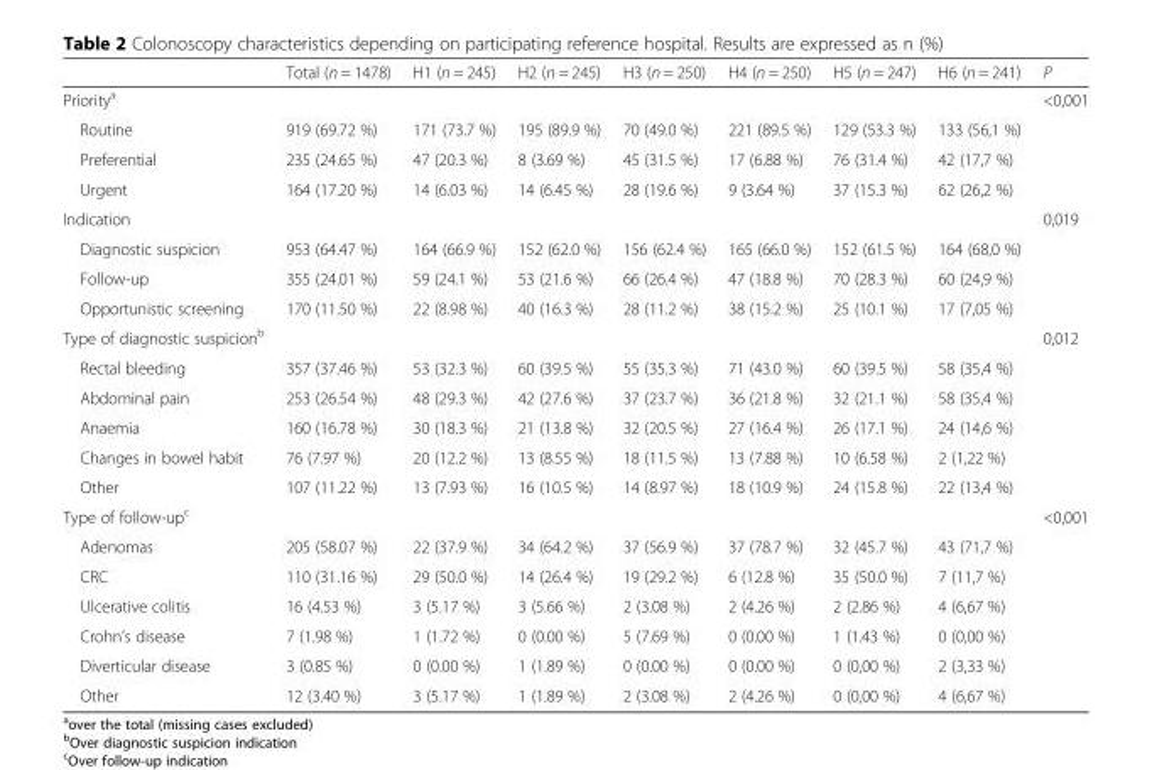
<table><thead><tr><td></td><td>Total (n = 1478)</td><td>H1 (n = 245)</td><td>H2 (n = 245)</td><td>H3 (n = 250)</td><td>H4 (n = 250)</td><td>H5 (n = 247)</td><td>H6 (n = 241)</td><td>P</td></tr></thead><tbody><tr><td>Priority<sup>a</sup></td><td></td><td></td><td></td><td></td><td></td><td></td><td></td><td>&lt;0,001</td></tr><tr><td>Routine</td><td>919 (69.72 %)</td><td>171 (73.7 %)</td><td>195 (89.9 %)</td><td>70 (49.0 %)</td><td>221 (89.5 %)</td><td>129 (53.3 %)</td><td>133 (56,1 %)</td><td></td></tr><tr><td>Preferential</td><td>235 (24.65 %)</td><td>47 (20.3 %)</td><td>8 (3.69 %)</td><td>45 (31.5 %)</td><td>17 (6.88 %)</td><td>76 (31.4 %)</td><td>42 (17,7 %)</td><td></td></tr><tr><td>Urgent</td><td>164 (17.20 %)</td><td>14 (6.03 %)</td><td>14 (6.45 %)</td><td>28 (19.6 %)</td><td>9 (3.64 %)</td><td>37 (15.3 %)</td><td>62 (26,2 %)</td><td></td></tr><tr><td>Indication</td><td></td><td></td><td></td><td></td><td></td><td></td><td></td><td>0,019</td></tr><tr><td>Diagnostic suspicion</td><td>953 (64.47 %)</td><td>164 (66.9 %)</td><td>152 (62.0 %)</td><td>156 (62.4 %)</td><td>165 (66.0 %)</td><td>152 (61.5 %)</td><td>164 (68,0 %)</td><td></td></tr><tr><td>Follow-up</td><td>355 (24.01 %)</td><td>59 (24.1 %)</td><td>53 (21.6 %)</td><td>66 (26.4 %)</td><td>47 (18.8 %)</td><td>70 (28.3 %)</td><td>60 (24,9 %)</td><td></td></tr><tr><td>Opportunistic screening</td><td>170 (11.50 %)</td><td>22 (8.98 %)</td><td>40 (16.3 %)</td><td>28 (11.2 %)</td><td>38 (15.2 %)</td><td>25 (10.1 %)</td><td>17 (7,05 %)</td><td></td></tr><tr><td>Type of diagnostic suspicion<sup>b</sup></td><td></td><td></td><td></td><td></td><td></td><td></td><td></td><td>0,012</td></tr><tr><td>Rectal bleeding</td><td>357 (37.46 %)</td><td>53 (32.3 %)</td><td>60 (39.5 %)</td><td>55 (35.3 %)</td><td>71 (43.0 %)</td><td>60 (39.5 %)</td><td>58 (35,4 %)</td><td></td></tr><tr><td>Abdominal pain</td><td>253 (26.54 %)</td><td>48 (29.3 %)</td><td>42 (27.6 %)</td><td>37 (23.7 %)</td><td>36 (21.8 %)</td><td>32 (21.1 %)</td><td>58 (35,4 %)</td><td></td></tr><tr><td>Anaemia</td><td>160 (16.78 %)</td><td>30 (18.3 %)</td><td>21 (13.8 %)</td><td>32 (20.5 %)</td><td>27 (16.4 %)</td><td>26 (17.1 %)</td><td>24 (14,6 %)</td><td></td></tr><tr><td>Changes in bowel habit</td><td>76 (7.97 %)</td><td>20 (12.2 %)</td><td>13 (8.55 %)</td><td>18 (11.5 %)</td><td>13 (7.88 %)</td><td>10 (6.58 %)</td><td>2 (1,22 %)</td><td></td></tr><tr><td>Other</td><td>107 (11.22 %)</td><td>13 (7.93 %)</td><td>16 (10.5 %)</td><td>14 (8.97 %)</td><td>18 (10.9 %)</td><td>24 (15.8 %)</td><td>22 (13,4 %)</td><td></td></tr><tr><td>Type of follow-up<sup>c</sup></td><td></td><td></td><td></td><td></td><td></td><td></td><td></td><td>&lt;0,001</td></tr><tr><td>Adenomas</td><td>205 (58.07 %)</td><td>22 (37.9 %)</td><td>34 (64.2 %)</td><td>37 (56.9 %)</td><td>37 (78.7 %)</td><td>32 (45.7 %)</td><td>43 (71,7 %)</td><td></td></tr><tr><td>CRC</td><td>110 (31.16 %)</td><td>29 (50.0 %)</td><td>14 (26.4 %)</td><td>19 (29.2 %)</td><td>6 (12.8 %)</td><td>35 (50.0 %)</td><td>7 (11,7 %)</td><td></td></tr><tr><td>Ulcerative colitis</td><td>16 (4.53 %)</td><td>3 (5.17 %)</td><td>3 (5.66 %)</td><td>2 (3.08 %)</td><td>2 (4.26 %)</td><td>2 (2.86 %)</td><td>4 (6,67 %)</td><td></td></tr><tr><td>Crohn’s disease</td><td>7 (1.98 %)</td><td>1 (1.72 %)</td><td>0 (0.00 %)</td><td>5 (7.69 %)</td><td>0 (0.00 %)</td><td>1 (1.43 %)</td><td>0 (0,00 %)</td><td></td></tr><tr><td>Diverticular disease</td><td>3 (0.85 %)</td><td>0 (0.00 %)</td><td>1 (1.89 %)</td><td>0 (0.00 %)</td><td>0 (0.00 %)</td><td>0 (0,00 %)</td><td>2 (3,33 %)</td><td></td></tr><tr><td>Other</td><td>12 (3.40 %)</td><td>3 (5.17 %)</td><td>1 (1.89 %)</td><td>2 (3.08 %)</td><td>2 (4.26 %)</td><td>0 (0,00 %)</td><td>4 (6,67 %)</td><td></td></tr></tbody></table>